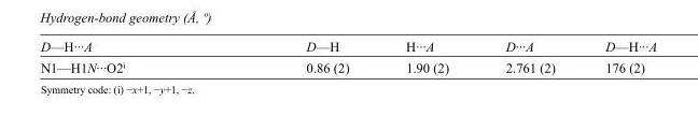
<table><tbody><tr><td>D—H···A</td><td>D—H</td><td>H···A</td><td>D···A</td><td>D—H···A</td></tr><tr><td>N1—H1N···O2<sup>i</sup></td><td>0.86 (2)</td><td>1.90 (2)</td><td>2.761 (2)</td><td>176 (2)</td></tr></tbody></table>